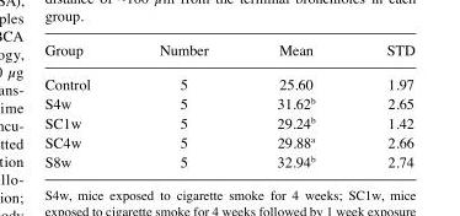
<table><thead><tr><td>Group</td><td>Number</td><td>Mean</td><td>STD</td></tr></thead><tbody><tr><td>Control</td><td>5</td><td>25.60</td><td>1.97</td></tr><tr><td>S4w</td><td>5</td><td>31.62<sup>b</sup></td><td>2.65</td></tr><tr><td>SC1w</td><td>5</td><td>29.24<sup>b</sup></td><td>1.42</td></tr><tr><td>SC4w</td><td>5</td><td>29.88<sup>a</sup></td><td>2.66</td></tr><tr><td>S8w</td><td>5</td><td>32.94<sup>b</sup></td><td>2.74</td></tr></tbody></table>